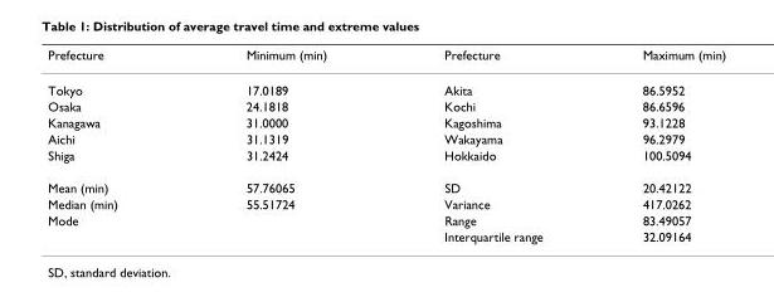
<table><thead><tr><td>Prefecture</td><td>Minimum (min)</td><td>Prefecture</td><td>Maximum (min)</td></tr></thead><tbody><tr><td>Tokyo</td><td>17.0189</td><td>Akita</td><td>86.5952</td></tr><tr><td>Osaka</td><td>24.1818</td><td>Kochi</td><td>86.6596</td></tr><tr><td>Kanagawa</td><td>31.0000</td><td>Kagoshima</td><td>93.1228</td></tr><tr><td>Aichi</td><td>31.1319</td><td>Wakayama</td><td>96.2979</td></tr><tr><td>Shiga</td><td>31.2424</td><td>Hokkaido</td><td>100.5094</td></tr><tr><td>Mean (min)</td><td>57.76065</td><td>SD</td><td>20.42122</td></tr><tr><td>Median (min)</td><td>55.51724</td><td>Variance</td><td>417.0262</td></tr><tr><td rowspan="2">Mode</td><td></td><td>Range</td><td>83.49057</td></tr><tr><td></td><td>Interquartile range</td><td>32.09164</td></tr></tbody></table>